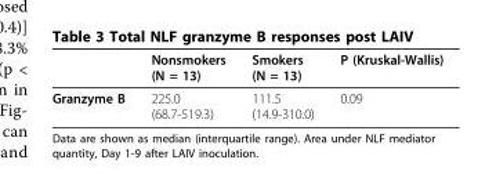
<table><thead><tr><td></td><td>Nonsmokers (N = 13)</td><td>Smokers (N = 13)</td><td>P (Kruskal-Wallis)</td></tr></thead><tbody><tr><td>Granzyme B</td><td>225.0 (68.7-519.3)</td><td>111.5 (14.9-310.0)</td><td>0.09</td></tr></tbody></table>